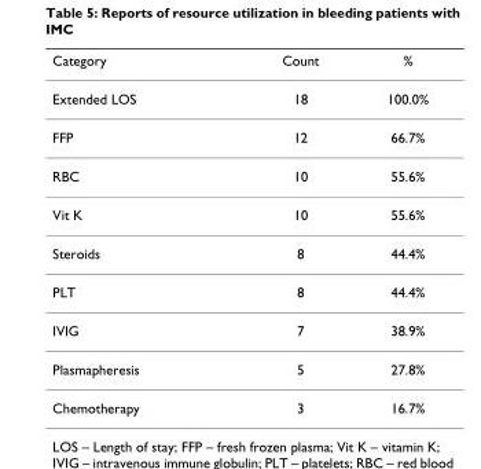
<table><thead><tr><td>Category</td><td>Count</td><td>%</td></tr></thead><tbody><tr><td>Extended LOS</td><td>18</td><td>100.0%</td></tr><tr><td>FFP</td><td>12</td><td>66.7%</td></tr><tr><td>RBC</td><td>10</td><td>55.6%</td></tr><tr><td>Vit K</td><td>10</td><td>55.6%</td></tr><tr><td>Steroids</td><td>8</td><td>44.4%</td></tr><tr><td>PLT</td><td>8</td><td>44.4%</td></tr><tr><td>IVIG</td><td>7</td><td>38.9%</td></tr><tr><td>Plasmapheresis</td><td>5</td><td>27.8%</td></tr><tr><td>Chemotherapy</td><td>3</td><td>16.7%</td></tr></tbody></table>